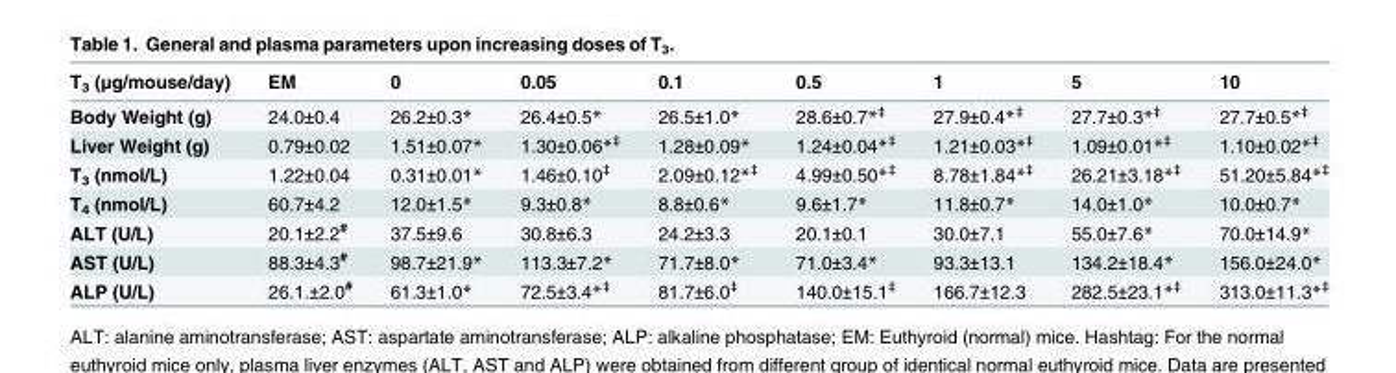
<table><thead><tr><td>T<sub>3</sub> (μg/mouse/day)</td><td>EM</td><td>0</td><td>0.05</td><td>0.1</td><td>0.5</td><td>1</td><td>5</td><td>10</td></tr></thead><tbody><tr><td>Body Weight (g)</td><td>24.0±0.4</td><td>26.2±0.3*</td><td>26.4±0.5*</td><td>26.5±1.0*</td><td>28.6±0.7*<sup>‡</sup></td><td>27.9±0.4*<sup>‡</sup></td><td>27.7±0.3*<sup>‡</sup></td><td>27.7±0.5*<sup>‡</sup></td></tr><tr><td>Liver Weight (g)</td><td>0.79±0.02</td><td>1.51±0.07*</td><td>1.30±0.06*<sup>‡</sup></td><td>1.28±0.09*</td><td>1.24±0.04*<sup>‡</sup></td><td>1.21±0.03*<sup>‡</sup></td><td>1.09±0.01*<sup>‡</sup></td><td>1.10±0.02*<sup>‡</sup></td></tr><tr><td>T<sub>3</sub> (nmol/L)</td><td>1.22±0.04</td><td>0.31±0.01*</td><td>1.46±0.10<sup>‡</sup></td><td>2.09±0.12*<sup>‡</sup></td><td>4.99±0.50*<sup>‡</sup></td><td>8.78±1.84*<sup>‡</sup></td><td>26.21±3.18*<sup>‡</sup></td><td>51.20±5.84*<sup>‡</sup></td></tr><tr><td>T<sub>4</sub> (nmol/L)</td><td>60.7±4.2</td><td>12.0±1.5*</td><td>9.3±0.8*</td><td>8.8±0.6*</td><td>9.6±1.7*</td><td>11.8±0.7*</td><td>14.0±1.0*</td><td>10.0±0.7*</td></tr><tr><td>ALT (U/L)</td><td>20.1±2.2<sup>#</sup></td><td>37.5±9.6</td><td>30.8±6.3</td><td>24.2±3.3</td><td>20.1±0.1</td><td>30.0±7.1</td><td>55.0±7.6*</td><td>70.0±14.9*</td></tr><tr><td>AST (U/L)</td><td>88.3±4.3<sup>#</sup></td><td>98.7±21.9*</td><td>113.3±7.2*</td><td>71.7±8.0*</td><td>71.0±3.4*</td><td>93.3±13.1</td><td>134.2±18.4*</td><td>156.0±24.0*</td></tr><tr><td>ALP (U/L)</td><td>26.1.±2.0<sup>#</sup></td><td>61.3±1.0*</td><td>72.5±3.4*<sup>‡</sup></td><td>81.7±6.0<sup>‡</sup></td><td>140.0±15.1<sup>‡</sup></td><td>166.7±12.3</td><td>282.5±23.1*<sup>‡</sup></td><td>313.0±11.3*<sup>‡</sup></td></tr></tbody></table>